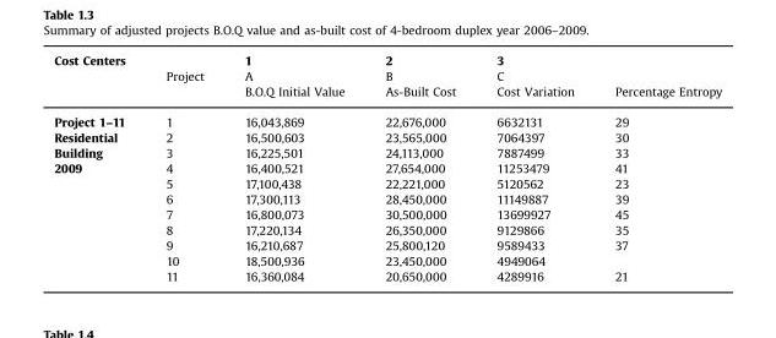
<table><thead><tr><td rowspan="3">Cost Centers</td><td rowspan="3">Project</td><td rowspan="3">1 A B.O.Q Initial Value</td><td rowspan="3">2 B As-Built Cost</td><td rowspan="3">3 C Cost Variation</td><td rowspan="3">Percentage Entropy</td></tr><tr></tr><tr></tr></thead><tbody><tr><td>Project 1–11</td><td>1</td><td>16,043,869</td><td>22,676,000</td><td>6632131</td><td>29</td></tr><tr><td>Residential</td><td>2</td><td>16,500,603</td><td>23,565,000</td><td>7064397</td><td>30</td></tr><tr><td>Building</td><td>3</td><td>16,225,501</td><td>24,113,000</td><td>7887499</td><td>33</td></tr><tr><td rowspan="8">2009</td><td>4</td><td>16,400,521</td><td>27,654,000</td><td>11253479</td><td>41</td></tr><tr><td>5</td><td>17,100,438</td><td>22,221,000</td><td>5120562</td><td>23</td></tr><tr><td>6</td><td>17,300,113</td><td>28,450,000</td><td>11149887</td><td>39</td></tr><tr><td>7</td><td>16,800,073</td><td>30,500,000</td><td>13699927</td><td>45</td></tr><tr><td>8</td><td>17,220,134</td><td>26,350,000</td><td>9129866</td><td>35</td></tr><tr><td>9</td><td>16,210,687</td><td>25,800,120</td><td>9589433</td><td>37</td></tr><tr><td>10</td><td>18,500,936</td><td>23,450,000</td><td>4949064</td><td></td></tr><tr><td>11</td><td>16,360,084</td><td>20,650,000</td><td>4289916</td><td>21</td></tr></tbody></table>